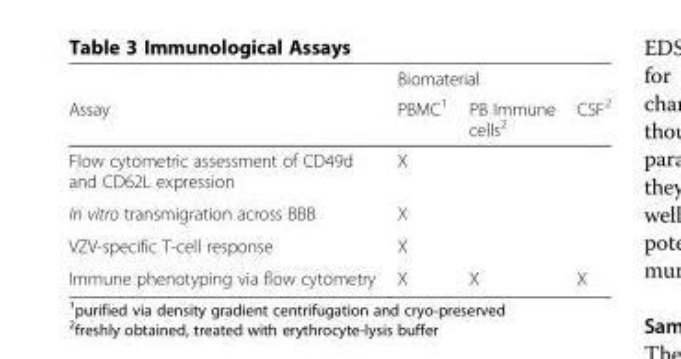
<table><thead><tr><td rowspan="2">Assay</td><td colspan="3">Biomaterial</td></tr><tr><td>PBMC<sup>1</sup></td><td>PB Immune cells<sup>2</sup></td><td>CSF<sup>2</sup></td></tr></thead><tbody><tr><td>Flow cytometric assessment of CD49d and CD62L expression</td><td>X</td><td></td><td></td></tr><tr><td>In vitro transmigration across BBB</td><td>X</td><td></td><td></td></tr><tr><td>VZV-specific T-cell response</td><td>X</td><td></td><td></td></tr><tr><td>Immune phenotyping via flow cytometry</td><td>X</td><td>X</td><td>X</td></tr></tbody></table>